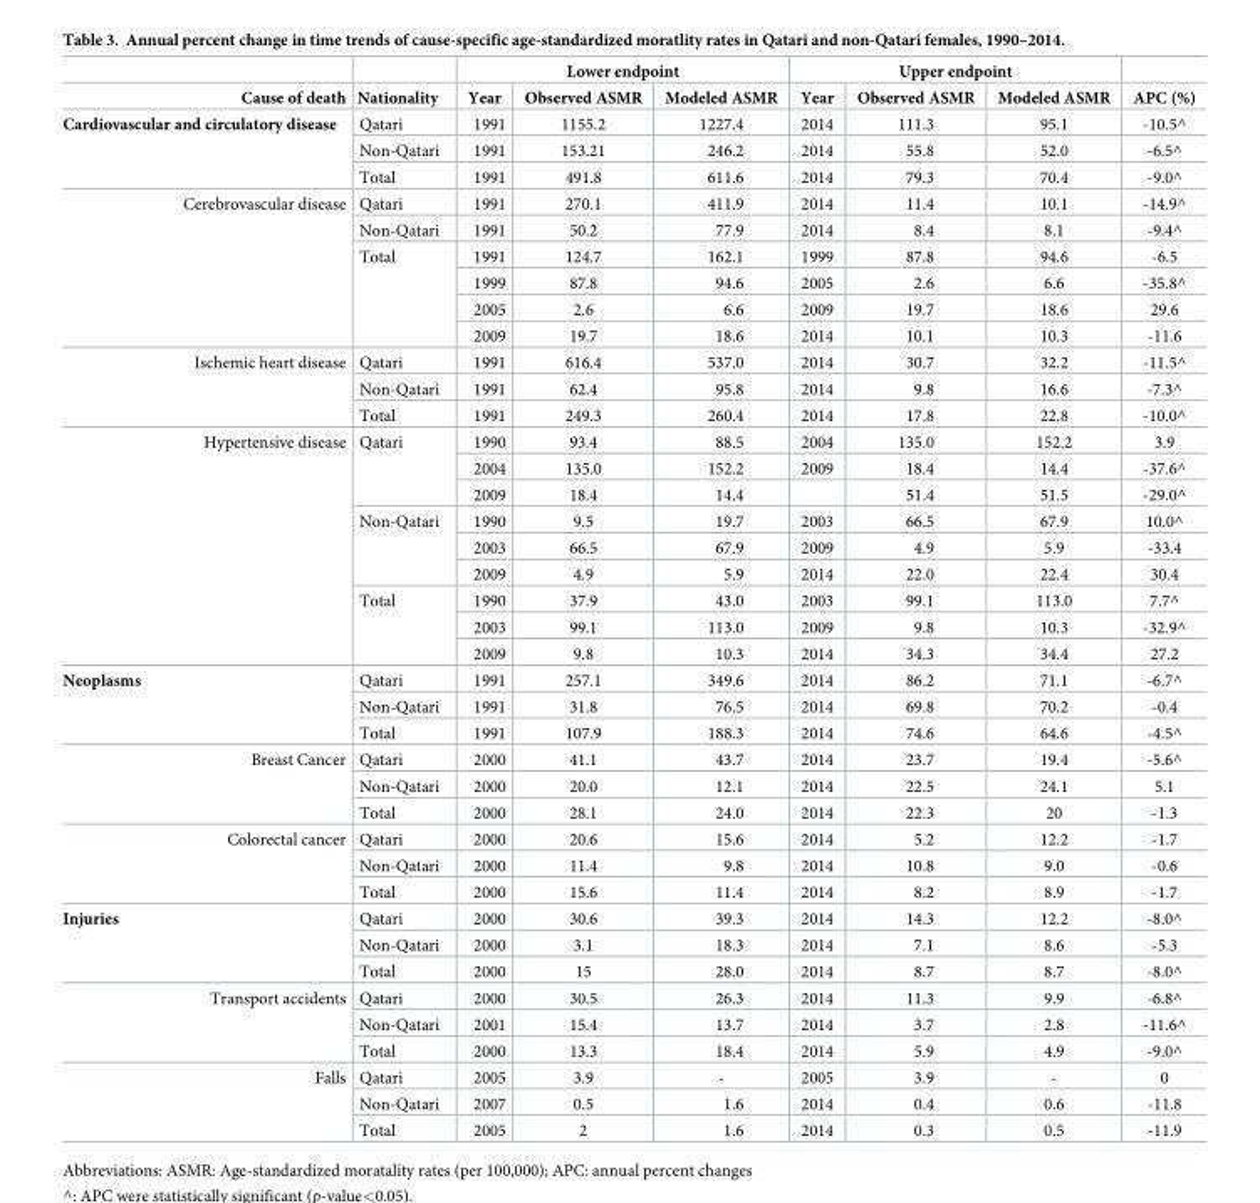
<table><thead><tr><td rowspan="2">Cause of death</td><td rowspan="2">Nationality</td><td colspan="3">Lower endpoint</td><td colspan="3">Upper endpoint</td><td rowspan="2">APC (%)</td></tr><tr><td>Year</td><td>Observed ASMR</td><td>Modeled ASMR</td><td>Year</td><td>Observed ASMR</td><td>Modeled ASMR</td></tr></thead><tbody><tr><td rowspan="3">Cardiovascular and circulatory disease</td><td>Qatari</td><td>1991</td><td>1155.2</td><td>1227.4</td><td>2014</td><td>111.3</td><td>95.1</td><td>-10.5^</td></tr><tr><td>Non-Qatari</td><td>1991</td><td>153.21</td><td>246.2</td><td>2014</td><td>55.8</td><td>52.0</td><td>-6.5^</td></tr><tr><td>Total</td><td>1991</td><td>491.8</td><td>611.6</td><td>2014</td><td>79.3</td><td>70.4</td><td>-9.0^</td></tr><tr><td rowspan="6">Cerebrovascular disease</td><td>Qatari</td><td>1991</td><td>270.1</td><td>411.9</td><td>2014</td><td>11.4</td><td>10.1</td><td>-14.9^</td></tr><tr><td>Non-Qatari</td><td>1991</td><td>50.2</td><td>77.9</td><td>2014</td><td>8.4</td><td>8.1</td><td>-9.4^</td></tr><tr><td rowspan="4">Total</td><td>1991</td><td>124.7</td><td>162.1</td><td>1999</td><td>87.8</td><td>94.6</td><td>-6.5</td></tr><tr><td>1999</td><td>87.8</td><td>94.6</td><td>2005</td><td>2.6</td><td>6.6</td><td>-35.8^</td></tr><tr><td>2005</td><td>2.6</td><td>6.6</td><td>2009</td><td>19.7</td><td>18.6</td><td>29.6</td></tr><tr><td>2009</td><td>19.7</td><td>18.6</td><td>2014</td><td>10.1</td><td>10.3</td><td>-11.6</td></tr><tr><td rowspan="3">Ischemic heart disease</td><td>Qatari</td><td>1991</td><td>616.4</td><td>537.0</td><td>2014</td><td>30.7</td><td>32.2</td><td>-11.5^</td></tr><tr><td>Non-Qatari</td><td>1991</td><td>62.4</td><td>95.8</td><td>2014</td><td>9.8</td><td>16.6</td><td>-7.3^</td></tr><tr><td>Total</td><td>1991</td><td>249.3</td><td>260.4</td><td>2014</td><td>17.8</td><td>22.8</td><td>-10.0^</td></tr><tr><td rowspan="9">Hypertensive disease</td><td rowspan="3">Qatari</td><td>1990</td><td>93.4</td><td>88.5</td><td>2004</td><td>135.0</td><td>152.2</td><td>3.9</td></tr><tr><td>2004</td><td>135.0</td><td>152.2</td><td>2009</td><td>18.4</td><td>14.4</td><td>-37.6^</td></tr><tr><td>2009</td><td>18.4</td><td>14.4</td><td></td><td>51.4</td><td>51.5</td><td>-29.0^</td></tr><tr><td rowspan="3">Non-Qatari</td><td>1990</td><td>9.5</td><td>19.7</td><td>2003</td><td>66.5</td><td>67.9</td><td>10.0^</td></tr><tr><td>2003</td><td>66.5</td><td>67.9</td><td>2009</td><td>4.9</td><td>5.9</td><td>-33.4</td></tr><tr><td>2009</td><td>4.9</td><td>5.9</td><td>2014</td><td>22.0</td><td>22.4</td><td>30.4</td></tr><tr><td rowspan="3">Total</td><td>1990</td><td>37.9</td><td>43.0</td><td>2003</td><td>99.1</td><td>113.0</td><td>7.7^</td></tr><tr><td>2003</td><td>99.1</td><td>113.0</td><td>2009</td><td>9.8</td><td>10.3</td><td>-32.9^</td></tr><tr><td>2009</td><td>9.8</td><td>10.3</td><td>2014</td><td>34.3</td><td>34.4</td><td>27.2</td></tr><tr><td rowspan="3">Neoplasms</td><td>Qatari</td><td>1991</td><td>257.1</td><td>349.6</td><td>2014</td><td>86.2</td><td>71.1</td><td>-6.7^</td></tr><tr><td>Non-Qatari</td><td>1991</td><td>31.8</td><td>76.5</td><td>2014</td><td>69.8</td><td>70.2</td><td>-0.4</td></tr><tr><td>Total</td><td>1991</td><td>107.9</td><td>188.3</td><td>2014</td><td>74.6</td><td>64.6</td><td>-4.5^</td></tr><tr><td rowspan="3">Breast Cancer</td><td>Qatari</td><td>2000</td><td>41.1</td><td>43.7</td><td>2014</td><td>23.7</td><td>19.4</td><td>-5.6^</td></tr><tr><td>Non-Qatari</td><td>2000</td><td>20.0</td><td>12.1</td><td>2014</td><td>22.5</td><td>24.1</td><td>5.1</td></tr><tr><td>Total</td><td>2000</td><td>28.1</td><td>24.0</td><td>2014</td><td>22.3</td><td>20</td><td>-1.3</td></tr><tr><td rowspan="3">Colorectal cancer</td><td>Qatari</td><td>2000</td><td>20.6</td><td>15.6</td><td>2014</td><td>5.2</td><td>12.2</td><td>-1.7</td></tr><tr><td>Non-Qatari</td><td>2000</td><td>11.4</td><td>9.8</td><td>2014</td><td>10.8</td><td>9.0</td><td>-0.6</td></tr><tr><td>Total</td><td>2000</td><td>15.6</td><td>11.4</td><td>2014</td><td>8.2</td><td>8.9</td><td>-1.7</td></tr><tr><td rowspan="3">Injuries</td><td>Qatari</td><td>2000</td><td>30.6</td><td>39.3</td><td>2014</td><td>14.3</td><td>12.2</td><td>-8.0^</td></tr><tr><td>Non-Qatari</td><td>2000</td><td>3.1</td><td>18.3</td><td>2014</td><td>7.1</td><td>8.6</td><td>-5.3</td></tr><tr><td>Total</td><td>2000</td><td>15</td><td>28.0</td><td>2014</td><td>8.7</td><td>8.7</td><td>-8.0^</td></tr><tr><td rowspan="3">Transport accidents</td><td>Qatari</td><td>2000</td><td>30.5</td><td>26.3</td><td>2014</td><td>11.3</td><td>9.9</td><td>-6.8^</td></tr><tr><td>Non-Qatari</td><td>2001</td><td>15.4</td><td>13.7</td><td>2014</td><td>3.7</td><td>2.8</td><td>-11.6^</td></tr><tr><td>Total</td><td>2000</td><td>13.3</td><td>18.4</td><td>2014</td><td>5.9</td><td>4.9</td><td>-9.0^</td></tr><tr><td rowspan="3">Falls</td><td>Qatari</td><td>2005</td><td>3.9</td><td>-</td><td>2005</td><td>3.9</td><td>-</td><td>0</td></tr><tr><td>Non-Qatari</td><td>2007</td><td>0.5</td><td>1.6</td><td>2014</td><td>0.4</td><td>0.6</td><td>-11.8</td></tr><tr><td>Total</td><td>2005</td><td>2</td><td>1.6</td><td>2014</td><td>0.3</td><td>0.5</td><td>-11.9</td></tr></tbody></table>